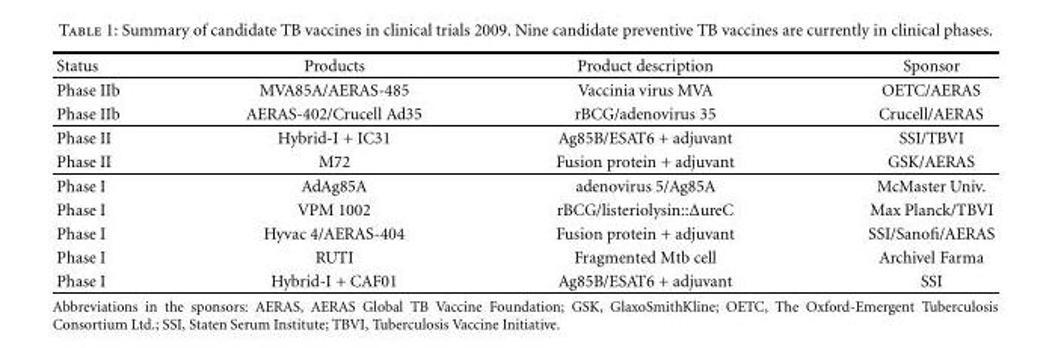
<table><thead><tr><td>Status</td><td>Products</td><td>Product description</td><td>Sponsor</td></tr></thead><tbody><tr><td>Phase IIb</td><td>MVA85A/AERAS-485</td><td>Vaccinia virus MVA</td><td>OETC/AERAS</td></tr><tr><td>Phase IIb</td><td>AERAS-402/Crucell Ad35</td><td>rBCG/adenovirus 35</td><td>Crucell/AERAS</td></tr><tr><td>Phase II</td><td>Hybrid-I + IC31</td><td>Ag85B/ESAT6 + adjuvant</td><td>SSI/TBVI</td></tr><tr><td>Phase II</td><td>M72</td><td>Fusion protein + adjuvant</td><td>GSK/AERAS</td></tr><tr><td>Phase I</td><td>AdAg85A</td><td>adenovirus 5/Ag85A</td><td>McMaster Univ.</td></tr><tr><td>Phase I</td><td>VPM 1002</td><td>rBCG/listeriolysin::ΔureC</td><td>Max Planck/TBVI</td></tr><tr><td>Phase I</td><td>Hyvac 4/AERAS-404</td><td>Fusion protein + adjuvant</td><td>SSI/Sanofi/AERAS</td></tr><tr><td>Phase I</td><td>RUTI</td><td>Fragmented Mtb cell</td><td>Archivel Farma</td></tr><tr><td>Phase I</td><td>Hybrid-I + CAF01</td><td>Ag85B/ESAT6 + adjuvant</td><td>SSI</td></tr></tbody></table>